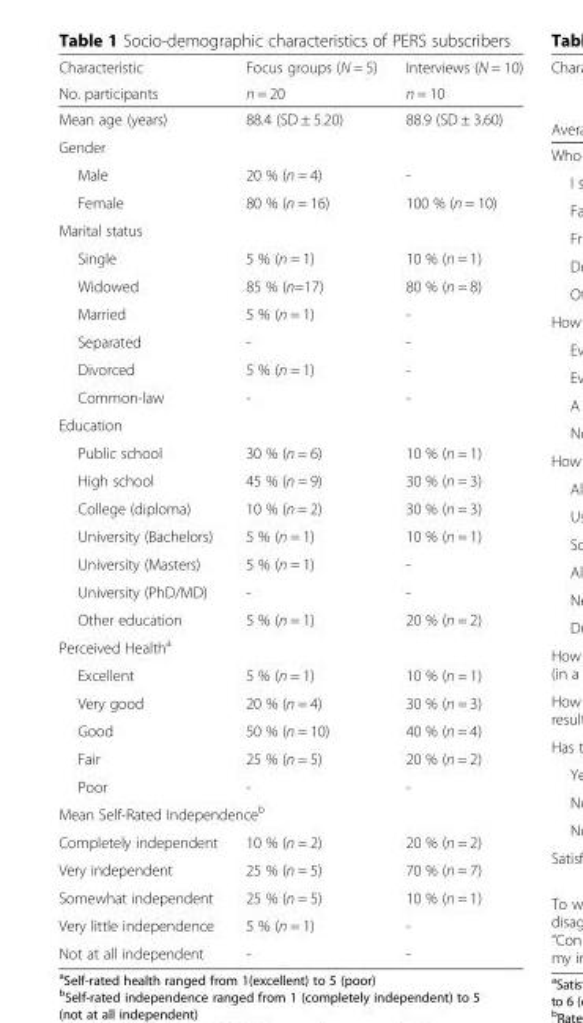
<table><thead><tr><td rowspan="2">Characteristic No. participants</td><td rowspan="2">Focus groups (N = 5) n = 20</td><td rowspan="2">Interviews (N = 10) n = 10</td></tr><tr></tr></thead><tbody><tr><td>Mean age (years)</td><td>88.4 (SD ± 5.20)</td><td>88.9 (SD ± 3.60)</td></tr><tr><td colspan="3">Gender</td></tr><tr><td>Male</td><td>20 % (n = 4)</td><td>-</td></tr><tr><td>Female</td><td>80 % (n = 16)</td><td>100 % (n = 10)</td></tr><tr><td colspan="3">Marital status</td></tr><tr><td>Single</td><td>5 % (n = 1)</td><td>10 % (n = 1)</td></tr><tr><td>Widowed</td><td>85 % (n=17)</td><td>80 % (n = 8)</td></tr><tr><td>Married</td><td>5 % (n = 1)</td><td>-</td></tr><tr><td>Separated</td><td>-</td><td>-</td></tr><tr><td>Divorced</td><td>5 % (n = 1)</td><td>-</td></tr><tr><td>Common-law</td><td>-</td><td>-</td></tr><tr><td colspan="3">Education</td></tr><tr><td>Public school</td><td>30 % (n = 6)</td><td>10 % (n = 1)</td></tr><tr><td>High school</td><td>45 % (n = 9)</td><td>30 % (n = 3)</td></tr><tr><td>College (diploma)</td><td>10 % (n = 2)</td><td>30 % (n = 3)</td></tr><tr><td>University (Bachelors)</td><td>5 % (n = 1)</td><td>10 % (n = 1)</td></tr><tr><td>University (Masters)</td><td>5 % (n = 1)</td><td>-</td></tr><tr><td>University (PhD/MD)</td><td>-</td><td>-</td></tr><tr><td>Other education</td><td>5 % (n = 1)</td><td>20 % (n = 2)</td></tr><tr><td colspan="3">Perceived Health<sup>a</sup></td></tr><tr><td>Excellent</td><td>5 % (n = 1)</td><td>10 % (n = 1)</td></tr><tr><td>Very good</td><td>20 % (n = 4)</td><td>30 % (n = 3)</td></tr><tr><td>Good</td><td>50 % (n = 10)</td><td>40 % (n = 4)</td></tr><tr><td>Fair</td><td>25 % (n = 5)</td><td>20 % (n = 2)</td></tr><tr><td>Poor</td><td>-</td><td>-</td></tr><tr><td colspan="3">Mean Self-Rated Independence<sup>b</sup></td></tr><tr><td>Completely independent</td><td>10 % (n = 2)</td><td>20 % (n = 2)</td></tr><tr><td>Very independent</td><td>25 % (n = 5)</td><td>70 % (n = 7)</td></tr><tr><td>Somewhat independent</td><td>25 % (n = 5)</td><td>10 % (n = 1)</td></tr><tr><td>Very little independence</td><td>5 % (n = 1)</td><td>-</td></tr><tr><td>Not at all independent</td><td>-</td><td>-</td></tr></tbody></table>